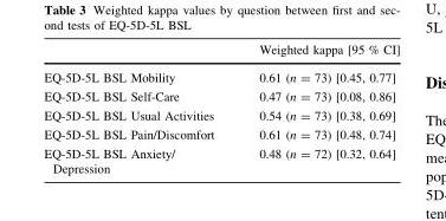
<table><thead><tr><td></td><td>Weighted kappa [95 % CI]</td></tr></thead><tbody><tr><td>EQ-5D-5L BSL Mobility</td><td>0.61 (n = 73) [0.45, 0.77]</td></tr><tr><td>EQ-5D-5L BSL Self-Care</td><td>0.47 (n = 73) [0.08, 0.86]</td></tr><tr><td>EQ-5D-5L BSL Usual Activities</td><td>0.54 (n = 73) [0.38, 0.69]</td></tr><tr><td>EQ-5D-5L BSL Pain/Discomfort</td><td>0.61 (n = 73) [0.48, 0.74]</td></tr><tr><td>EQ-5D-5L BSL Anxiety/ Depression</td><td>0.48 (n = 72) [0.32, 0.64]</td></tr></tbody></table>